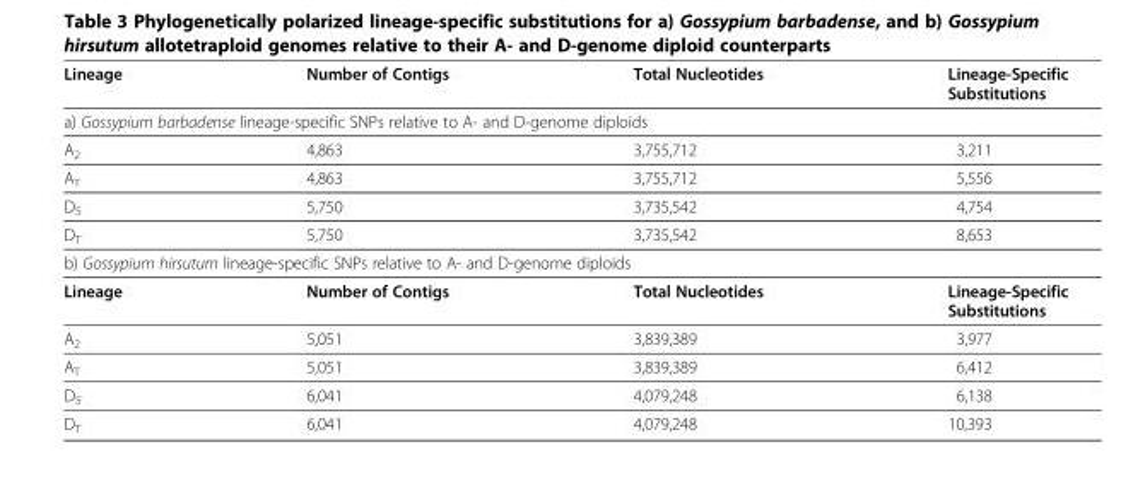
<table><thead><tr><td>Lineage</td><td>Number of Contigs</td><td>Total Nucleotides</td><td>Lineage-Specific Substitutions</td></tr></thead><tbody><tr><td colspan="4">a) Gossypium barbadense lineage-specific SNPs relative to A- and D-genome diploids</td></tr><tr><td>A<sub>2</sub></td><td>4,863</td><td>3,755,712</td><td>3,211</td></tr><tr><td>A<sub>T</sub></td><td>4,863</td><td>3,755,712</td><td>5,556</td></tr><tr><td>D<sub>5</sub></td><td>5,750</td><td>3,735,542</td><td>4,754</td></tr><tr><td>D<sub>T</sub></td><td>5,750</td><td>3,735,542</td><td>8,653</td></tr><tr><td colspan="4">b) Gossypium hirsutum lineage-specific SNPs relative to A- and D-genome diploids</td></tr><tr><td>Lineage</td><td>Number of Contigs</td><td>Total Nucleotides</td><td>Lineage-Specific Substitutions</td></tr><tr><td>A<sub>2</sub></td><td>5,051</td><td>3,839,389</td><td>3,977</td></tr><tr><td>A<sub>T</sub></td><td>5,051</td><td>3,839,389</td><td>6,412</td></tr><tr><td>D<sub>5</sub></td><td>6,041</td><td>4,079,248</td><td>6,138</td></tr><tr><td>D<sub>T</sub></td><td>6,041</td><td>4,079,248</td><td>10,393</td></tr></tbody></table>